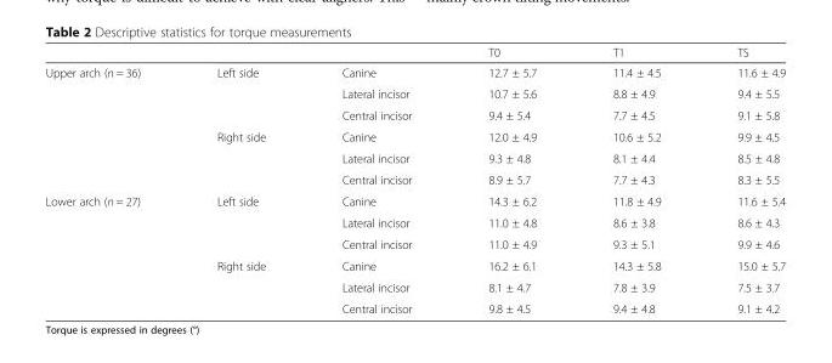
<table><thead><tr><td></td><td></td><td></td><td>T0</td><td>T1</td><td>TS</td></tr></thead><tbody><tr><td rowspan="6">Upper arch (n = 36)</td><td rowspan="3">Left side</td><td>Canine</td><td>12.7 ± 5.7</td><td>11.4 ± 4.5</td><td>11.6 ± 4.9</td></tr><tr><td>Lateral incisor</td><td>10.7 ± 5.6</td><td>8.8 ± 4.9</td><td>9.4 ± 5.5</td></tr><tr><td>Central incisor</td><td>9.4 ± 5.4</td><td>7.7 ± 4.5</td><td>9.1 ± 5.8</td></tr><tr><td rowspan="3">Right side</td><td>Canine</td><td>12.0 ± 4.9</td><td>10.6 ± 5.2</td><td>9.9 ± 4.5</td></tr><tr><td>Lateral incisor</td><td>9.3 ± 4.8</td><td>8.1 ± 4.4</td><td>8.5 ± 4.8</td></tr><tr><td>Central incisor</td><td>8.9 ± 5.7</td><td>7.7 ± 4.3</td><td>8.3 ± 5.5</td></tr><tr><td rowspan="6">Lower arch (n = 27)</td><td rowspan="3">Left side</td><td>Canine</td><td>14.3 ± 6.2</td><td>11.8 ± 4.9</td><td>11.6 ± 5.4</td></tr><tr><td>Lateral incisor</td><td>11.0 ± 4.8</td><td>8.6 ± 3.8</td><td>8.6 ± 4.3</td></tr><tr><td>Central incisor</td><td>11.0 ± 4.9</td><td>9.3 ± 5.1</td><td>9.9 ± 4.6</td></tr><tr><td rowspan="3">Right side</td><td>Canine</td><td>16.2 ± 6.1</td><td>14.3 ± 5.8</td><td>15.0 ± 5.7</td></tr><tr><td>Lateral incisor</td><td>8.1 ± 4.7</td><td>7.8 ± 3.9</td><td>7.5 ± 3.7</td></tr><tr><td>Central incisor</td><td>9.8 ± 4.5</td><td>9.4 ± 4.8</td><td>9.1 ± 4.2</td></tr></tbody></table>